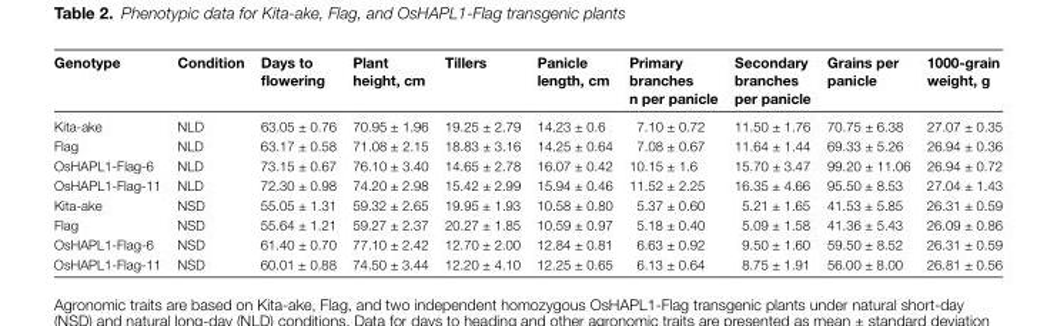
<table><thead><tr><td>Genotype</td><td>Condition</td><td>Days to flowering</td><td>Plant height, cm</td><td>Tillers</td><td>Panicle length, cm</td><td>Primary branches n per panicle</td><td>Secondary branches per panicle</td><td>Grains per panicle</td><td>1000-grain weight, g</td></tr></thead><tbody><tr><td>Kita-ake</td><td>NLD</td><td>63.05 ± 0.76</td><td>70.95 ± 1.96</td><td>19.25 ± 2.79</td><td>14.23 ± 0.6</td><td>7.10 ± 0.72</td><td>11.50 ± 1.76</td><td>70.75 ± 6.38</td><td>27.07 ± 0.35</td></tr><tr><td>Flag</td><td>NLD</td><td>63.17 ± 0.58</td><td>71.08 ± 2.15</td><td>18.83 ± 3.16</td><td>14.25 ± 0.64</td><td>7.08 ± 0.67</td><td>11.64 ± 1.44</td><td>69.33 ± 5.26</td><td>26.94 ± 0.36</td></tr><tr><td>OsHAPL1-Flag-6</td><td>NLD</td><td>73.15 ± 0.67</td><td>76.10 ± 3.40</td><td>14.65 ± 2.78</td><td>16.07 ± 0.42</td><td>10.15 ± 1.6</td><td>15.70 ± 3.47</td><td>99.20 ± 11.06</td><td>26.94 ± 0.72</td></tr><tr><td>OsHAPL1-Flag-11</td><td>NLD</td><td>72.30 ± 0.98</td><td>74.20 ± 2.98</td><td>15.42 ± 2.99</td><td>15.94 ± 0.46</td><td>11.52 ± 2.25</td><td>16.35 ± 4.66</td><td>95.50 ± 8.53</td><td>27.04 ± 1.43</td></tr><tr><td>Kita-ake</td><td>NSD</td><td>55.05 ± 1.31</td><td>59.32 ± 2.65</td><td>19.95 ± 1.93</td><td>10.58 ± 0.80</td><td>5.37 ± 0.60</td><td>5.21 ± 1.65</td><td>41.53 ± 5.85</td><td>26.31 ± 0.59</td></tr><tr><td>Flag</td><td>NSD</td><td>55.64 ± 1.21</td><td>59.27 ± 2.37</td><td>20.27 ± 1.85</td><td>10.59 ± 0.97</td><td>5.18 ± 0.40</td><td>5.09 ± 1.58</td><td>41.36 ± 5.43</td><td>26.09 ± 0.86</td></tr><tr><td>OsHAPL1-Flag-6</td><td>NSD</td><td>61.40 ± 0.70</td><td>77.10 ± 2.42</td><td>12.70 ± 2.00</td><td>12.84 ± 0.81</td><td>6.63 ± 0.92</td><td>9.50 ± 1.60</td><td>59.50 ± 8.52</td><td>26.31 ± 0.59</td></tr><tr><td>OsHAPL1-Flag-11</td><td>NSD</td><td>60.01 ± 0.88</td><td>74.50 ± 3.44</td><td>12.20 ± 4.10</td><td>12.25 ± 0.65</td><td>6.13 ± 0.64</td><td>8.75 ± 1.91</td><td>56.00 ± 8.00</td><td>26.81 ± 0.56</td></tr></tbody></table>